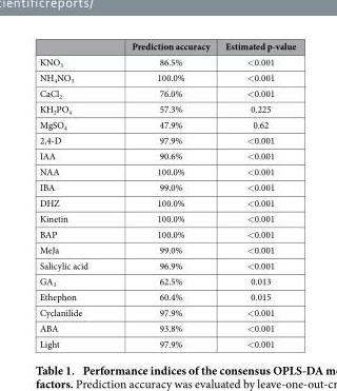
<table><thead><tr><td></td><td>Prediction accuracy</td><td>Estimated p-value</td></tr></thead><tbody><tr><td>KNO<sub>3</sub></td><td>86.5%</td><td>&lt; 0.001</td></tr><tr><td>NH<sub>4</sub>NO<sub>3</sub></td><td>100.0%</td><td>&lt; 0.001</td></tr><tr><td>CaCl<sub>2</sub></td><td>76.0%</td><td>&lt; 0.001</td></tr><tr><td>KH<sub>2</sub>PO<sub>4</sub></td><td>57.3%</td><td>0.225</td></tr><tr><td>MgSO<sub>4</sub></td><td>47.9%</td><td>0.62</td></tr><tr><td>2,4-D</td><td>97.9%</td><td>&lt; 0.001</td></tr><tr><td>IAA</td><td>90.6%</td><td>&lt; 0.001</td></tr><tr><td>NAA</td><td>100.0%</td><td>&lt; 0.001</td></tr><tr><td>IBA</td><td>99.0%</td><td>&lt; 0.001</td></tr><tr><td>DHZ</td><td>100.0%</td><td>&lt; 0.001</td></tr><tr><td>Kinetin</td><td>100.0%</td><td>&lt; 0.001</td></tr><tr><td>BAP</td><td>100.0%</td><td>&lt; 0.001</td></tr><tr><td>MeJa</td><td>99.0%</td><td>&lt; 0.001</td></tr><tr><td>Salicylic acid</td><td>96.9%</td><td>&lt; 0.001</td></tr><tr><td>GA<sub>3</sub></td><td>62.5%</td><td>0.013</td></tr><tr><td>Ethephon</td><td>60.4%</td><td>0.015</td></tr><tr><td>Cyclanilide</td><td>97.9%</td><td>&lt; 0.001</td></tr><tr><td>ABA</td><td>93.8%</td><td>&lt; 0.001</td></tr><tr><td>Light</td><td>97.9%</td><td>&lt; 0.001</td></tr></tbody></table>